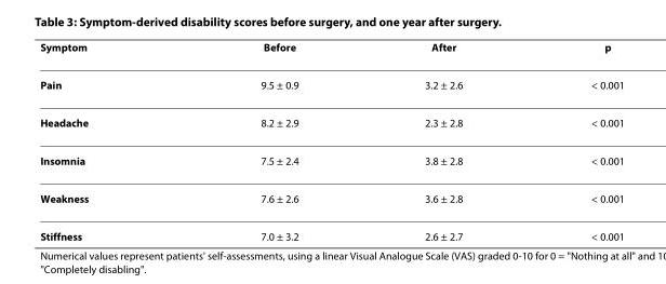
<table><thead><tr><td>Symptom</td><td>Before</td><td>After</td><td>p</td></tr></thead><tbody><tr><td>Pain</td><td>9.5 ± 0.9</td><td>3.2 ± 2.6</td><td>&lt; 0.001</td></tr><tr><td>Headache</td><td>8.2 ± 2.9</td><td>2.3 ± 2.8</td><td>&lt; 0.001</td></tr><tr><td>Insomnia</td><td>7.5 ± 2.4</td><td>3.8 ± 2.8</td><td>&lt; 0.001</td></tr><tr><td>Weakness</td><td>7.6 ± 2.6</td><td>3.6 ± 2.8</td><td>&lt; 0.001</td></tr><tr><td>Stiffness</td><td>7.0 ± 3.2</td><td>2.6 ± 2.7</td><td>&lt; 0.001</td></tr></tbody></table>